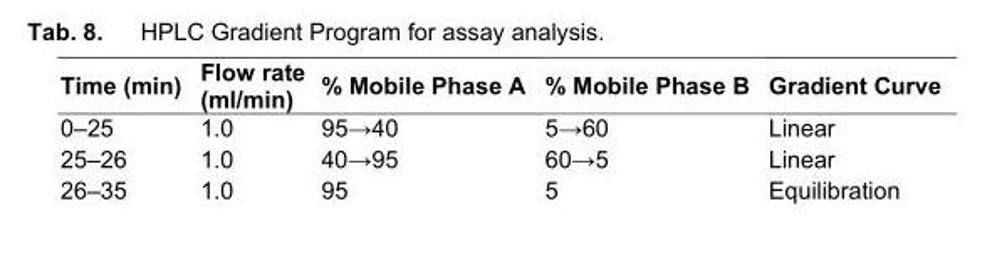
<table><thead><tr><td>Time (min)</td><td>Flow rate (ml/min)</td><td>% Mobile Phase A</td><td>% Mobile Phase B</td><td>Gradient Curve</td></tr></thead><tbody><tr><td>0–25</td><td>1.0</td><td>95→40</td><td>5→60</td><td>Linear</td></tr><tr><td>25–26</td><td>1.0</td><td>40→95</td><td>60→5</td><td>Linear</td></tr><tr><td>26–35</td><td>1.0</td><td>95</td><td>5</td><td>Equilibration</td></tr></tbody></table>